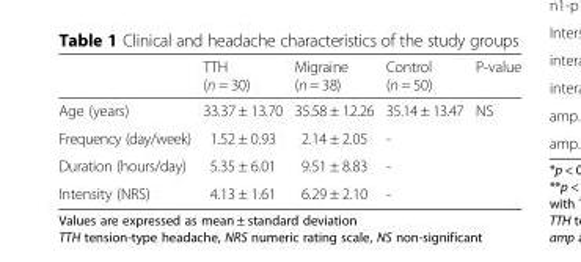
<table><thead><tr><td></td><td>TTH (n = 30)</td><td>Migraine (n = 38)</td><td>Control (n = 50)</td><td>P-value</td></tr></thead><tbody><tr><td>Age (years)</td><td>33.37 ± 13.70</td><td>35.58 ± 12.26</td><td>35.14 ± 13.47</td><td>NS</td></tr><tr><td>Frequency (day/week)</td><td>1.52 ± 0.93</td><td>2.14 ± 2.05</td><td>-</td><td></td></tr><tr><td>Duration (hours/day)</td><td>5.35 ± 6.01</td><td>9.51 ± 8.83</td><td>-</td><td></td></tr><tr><td>Intensity (NRS)</td><td>4.13 ± 1.61</td><td>6.29 ± 2.10</td><td>-</td><td></td></tr></tbody></table>